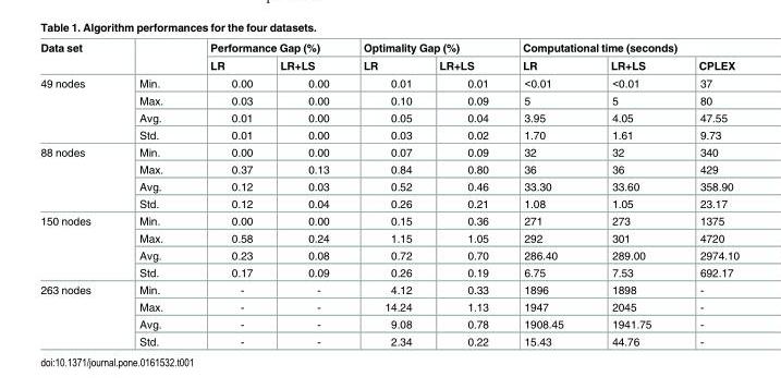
<table><thead><tr><td rowspan="2">Data set</td><td rowspan="2"></td><td colspan="2">Performance Gap (%)</td><td colspan="2">Optimality Gap (%)</td><td colspan="3">Computational time (seconds)</td></tr><tr><td>LR</td><td>LR+LS</td><td>LR</td><td>LR+LS</td><td>LR</td><td>LR+LS</td><td>CPLEX</td></tr></thead><tbody><tr><td rowspan="4">49 nodes</td><td>Min.</td><td>0.00</td><td>0.00</td><td>0.01</td><td>0.01</td><td>&lt;0.01</td><td>&lt;0.01</td><td>37</td></tr><tr><td>Max.</td><td>0.03</td><td>0.00</td><td>0.10</td><td>0.09</td><td>5</td><td>5</td><td>80</td></tr><tr><td>Avg.</td><td>0.01</td><td>0.00</td><td>0.05</td><td>0.04</td><td>3.95</td><td>4.05</td><td>47.55</td></tr><tr><td>Std.</td><td>0.01</td><td>0.00</td><td>0.03</td><td>0.02</td><td>1.70</td><td>1.61</td><td>9.73</td></tr><tr><td rowspan="4">88 nodes</td><td>Min.</td><td>0.00</td><td>0.00</td><td>0.07</td><td>0.09</td><td>32</td><td>32</td><td>340</td></tr><tr><td>Max.</td><td>0.37</td><td>0.13</td><td>0.84</td><td>0.80</td><td>36</td><td>36</td><td>429</td></tr><tr><td>Avg.</td><td>0.12</td><td>0.03</td><td>0.52</td><td>0.46</td><td>33.30</td><td>33.60</td><td>358.90</td></tr><tr><td>Std.</td><td>0.12</td><td>0.04</td><td>0.26</td><td>0.21</td><td>1.08</td><td>1.05</td><td>23.17</td></tr><tr><td rowspan="4">150 nodes</td><td>Min.</td><td>0.00</td><td>0.00</td><td>0.15</td><td>0.36</td><td>271</td><td>273</td><td>1375</td></tr><tr><td>Max.</td><td>0.58</td><td>0.24</td><td>1.15</td><td>1.05</td><td>292</td><td>301</td><td>4720</td></tr><tr><td>Avg.</td><td>0.23</td><td>0.08</td><td>0.72</td><td>0.70</td><td>286.40</td><td>289.00</td><td>2974.10</td></tr><tr><td>Std.</td><td>0.17</td><td>0.09</td><td>0.26</td><td>0.19</td><td>6.75</td><td>7.53</td><td>692.17</td></tr><tr><td rowspan="4">263 nodes</td><td>Min.</td><td>-</td><td>-</td><td>4.12</td><td>0.33</td><td>1896</td><td>1898</td><td>-</td></tr><tr><td>Max.</td><td>-</td><td>-</td><td>14.24</td><td>1.13</td><td>1947</td><td>2045</td><td>-</td></tr><tr><td>Avg.</td><td>-</td><td>-</td><td>9.08</td><td>0.78</td><td>1908.45</td><td>1941.75</td><td>-</td></tr><tr><td>Std.</td><td>-</td><td>-</td><td>2.34</td><td>0.22</td><td>15.43</td><td>44.76</td><td>-</td></tr></tbody></table>